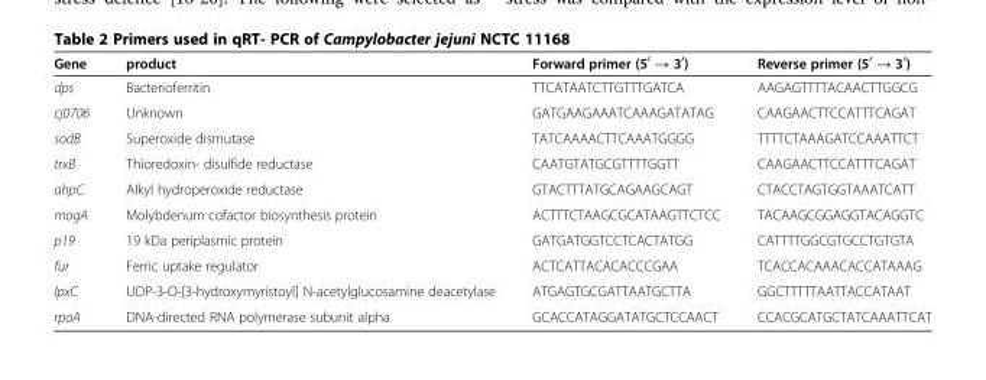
<table><thead><tr><td>Gene</td><td>product</td><td>Forward primer (5′ → 3′)</td><td>Reverse primer (5′ → 3′)</td></tr></thead><tbody><tr><td>dps</td><td>Bacterioferritin</td><td>TTCATAATCTTGTTTGATCA</td><td>AAGAGTTTTACAACTTGGCG</td></tr><tr><td>cj0706</td><td>Unknown</td><td>GATGAAGAAATCAAAGATATAG</td><td>CAAGAACTTCCATTTCAGAT</td></tr><tr><td>sodB</td><td>Superoxide dismutase</td><td>TATCAAAACTTCAAATGGGG</td><td>TTTTCTAAAGATCCAAATTCT</td></tr><tr><td>trxB</td><td>Thioredoxin- disulfide reductase</td><td>CAATGTATGCGTTTTGGTT</td><td>CAAGAACTTCCATTTCAGAT</td></tr><tr><td>ahpC</td><td>Alkyl hydroperoxide reductase</td><td>GTACTTTATGCAGAAGCAGT</td><td>CTACCTAGTGGTAAATCATT</td></tr><tr><td>mogA</td><td>Molybdenum cofactor biosynthesis protein</td><td>ACTTTCTAAGCGCATAAGTTCTCC</td><td>TACAAGCGGAGGTACAGGTC</td></tr><tr><td>p19</td><td>19 kDa periplasmic protein</td><td>GATGATGGTCCTCACTATGG</td><td>CATTTTGGCGTGCCTGTGTA</td></tr><tr><td>fur</td><td>Ferric uptake regulator</td><td>ACTCATTACACACCCGAA</td><td>TCACCACAAACACCATAAAG</td></tr><tr><td>lpxC</td><td>UDP-3-O-[3-hydroxymyristoyl] N-acetylglucosamine deacetylase</td><td>ATGAGTGCGATTAATGCTTA</td><td>GGCTTTTTAATTACCATAAT</td></tr><tr><td>rpoA</td><td>DNA-directed RNA polymerase subunit alpha</td><td>GCACCATAGGATATGCTCCAACT</td><td>CCACGCATGCTATCAAATTCAT</td></tr></tbody></table>